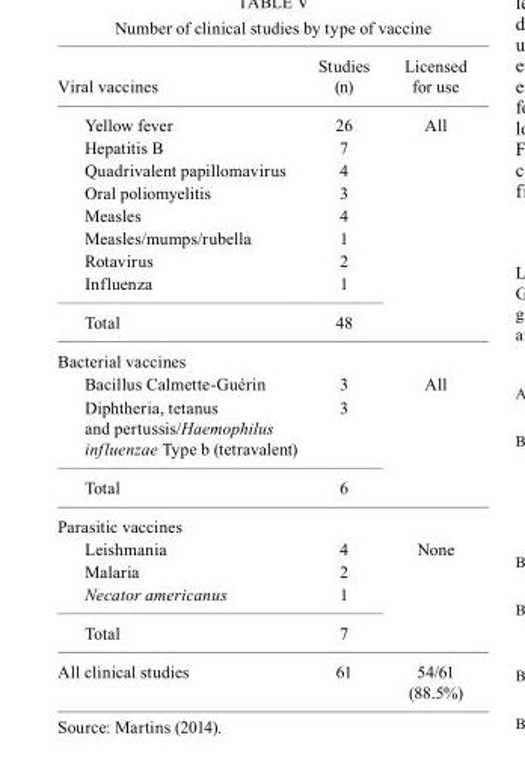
<table><thead><tr><td>Viral vaccines</td><td>Studies (n)</td><td>Licensed for use</td></tr></thead><tbody><tr><td>Yellow fever</td><td>26</td><td rowspan="9">All</td></tr><tr><td>Hepatitis B</td><td>7</td></tr><tr><td>Quadrivalent papillomavirus</td><td>4</td></tr><tr><td>Oral poliomyelitis</td><td>3</td></tr><tr><td>Measles</td><td>4</td></tr><tr><td>Measles/mumps/rubella</td><td>1</td></tr><tr><td>Rotavirus</td><td>2</td></tr><tr><td>Influenza</td><td>1</td></tr><tr><td>Total</td><td>48</td></tr><tr><td colspan="3">Bacterial vaccines</td></tr><tr><td>Bacillus Calmette-Guérin</td><td>3</td><td rowspan="3">All</td></tr><tr><td>Diphtheria, tetanus and pertussis/Haemophilus influenzae Type b (tetravalent)</td><td>3</td></tr><tr><td>Total</td><td>6</td></tr><tr><td colspan="3">Parasitic vaccines</td></tr><tr><td>Leishmania</td><td>4</td><td rowspan="4">None</td></tr><tr><td>Malaria</td><td>2</td></tr><tr><td>Necator americanus</td><td>1</td></tr><tr><td>Total</td><td>7</td></tr><tr><td>All clinical studies</td><td>61</td><td>54/61 (88.5%)</td></tr></tbody></table>